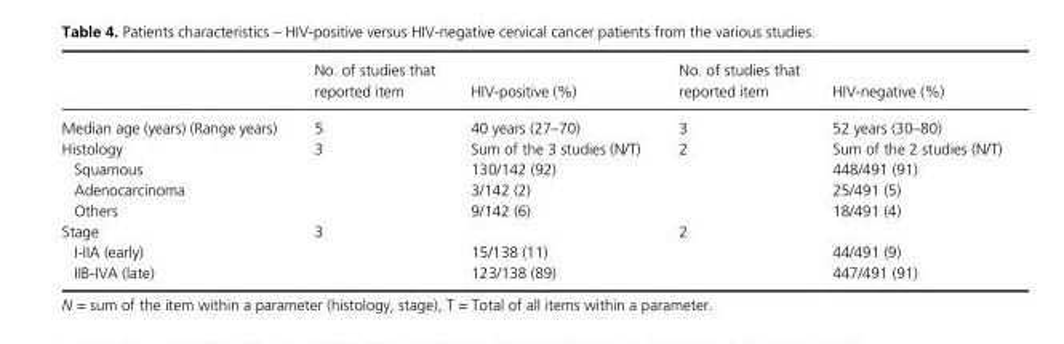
<table><thead><tr><td></td><td>No. of studies that reported item</td><td>HIV- positive (%)</td><td>No. of studies that reported item</td><td>HIV- negative (%)</td></tr></thead><tbody><tr><td>Median age (years) (Range years)</td><td>5</td><td>40 years (27–70)</td><td>3</td><td>52 years (30–80)</td></tr><tr><td>Histology</td><td>3</td><td>Sum of the 3 studies (N/T)</td><td>2</td><td>Sum of the 2 studies (N/T)</td></tr><tr><td>Squamous</td><td></td><td>130/142 (92)</td><td></td><td>448/491 (91)</td></tr><tr><td>Adenocarcinoma</td><td></td><td>3/142 (2)</td><td></td><td>25/491 (5)</td></tr><tr><td>Others</td><td></td><td>9/142 (6)</td><td></td><td>18/491 (4)</td></tr><tr><td>Stage</td><td>3</td><td></td><td>2</td><td></td></tr><tr><td>I- IIA (early)</td><td></td><td>15/138 (11)</td><td></td><td>44/491 (9)</td></tr><tr><td>IIB- IVA (late)</td><td></td><td>123/138 (89)</td><td></td><td>447/491 (91)</td></tr></tbody></table>